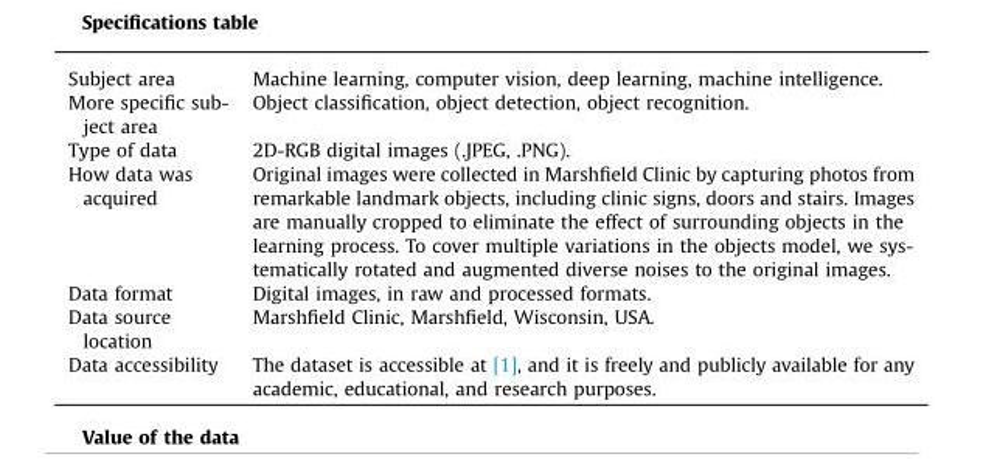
<table><tbody><tr><td>Subject area</td><td>Machine learning, computer vision, deep learning, machine intelligence.</td></tr><tr><td>More specific sub- ject area</td><td>Object classification, object detection, object recognition.</td></tr><tr><td>Type of data</td><td>2D-RGB digital images (.JPEG, .PNG).</td></tr><tr><td>How data was acquired</td><td>Original images were collected in Marshfield Clinic by capturing photos from remarkable landmark objects, including clinic signs, doors and stairs. Images are manually cropped to eliminate the effect of surrounding objects in the learning process. To cover multiple variations in the objects model, we sys- tematically rotated and augmented diverse noises to the original images.</td></tr><tr><td>Data format</td><td>Digital images, in raw and processed formats.</td></tr><tr><td>Data source location</td><td>Marshfield Clinic, Marshfield, Wisconsin, USA.</td></tr><tr><td>Data accessibility</td><td>The dataset is accessible at [1], and it is freely and publicly available for any academic, educational, and research purposes.</td></tr></tbody></table>